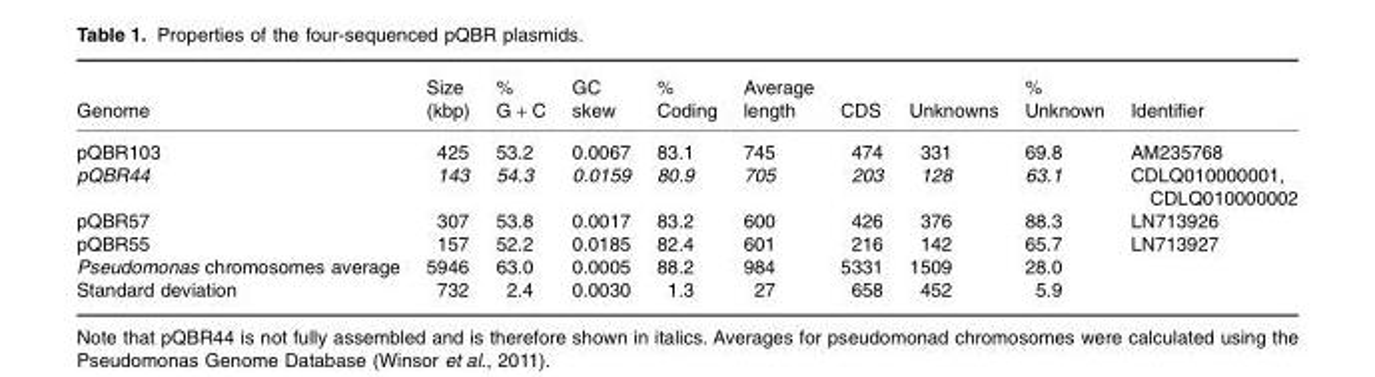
<table><thead><tr><td>Genome</td><td>Size (kbp)</td><td>% G + C</td><td>GC skew</td><td>% Coding</td><td>Average length</td><td>CDS</td><td>Unknowns</td><td>% Unknown</td><td>Identifier</td></tr></thead><tbody><tr><td>pQBR103</td><td>425</td><td>53.2</td><td>0.0067</td><td>83.1</td><td>745</td><td>474</td><td>331</td><td>69.8</td><td>AM235768</td></tr><tr><td>pQBR44</td><td>143</td><td>54.3</td><td>0.0159</td><td>80.9</td><td>705</td><td>203</td><td>128</td><td>63.1</td><td>CDLQ010000001, CDLQ010000002</td></tr><tr><td>pQBR57</td><td>307</td><td>53.8</td><td>0.0017</td><td>83.2</td><td>600</td><td>426</td><td>376</td><td>88.3</td><td>LN713926</td></tr><tr><td>pQBR55</td><td>157</td><td>52.2</td><td>0.0185</td><td>82.4</td><td>601</td><td>216</td><td>142</td><td>65.7</td><td>LN713927</td></tr><tr><td>Pseudomonas chromosomes average</td><td>5946</td><td>63.0</td><td>0.0005</td><td>88.2</td><td>984</td><td>5331</td><td>1509</td><td>28.0</td><td></td></tr><tr><td>Standard deviation</td><td>732</td><td>2.4</td><td>0.0030</td><td>1.3</td><td>27</td><td>658</td><td>452</td><td>5.9</td><td></td></tr></tbody></table>